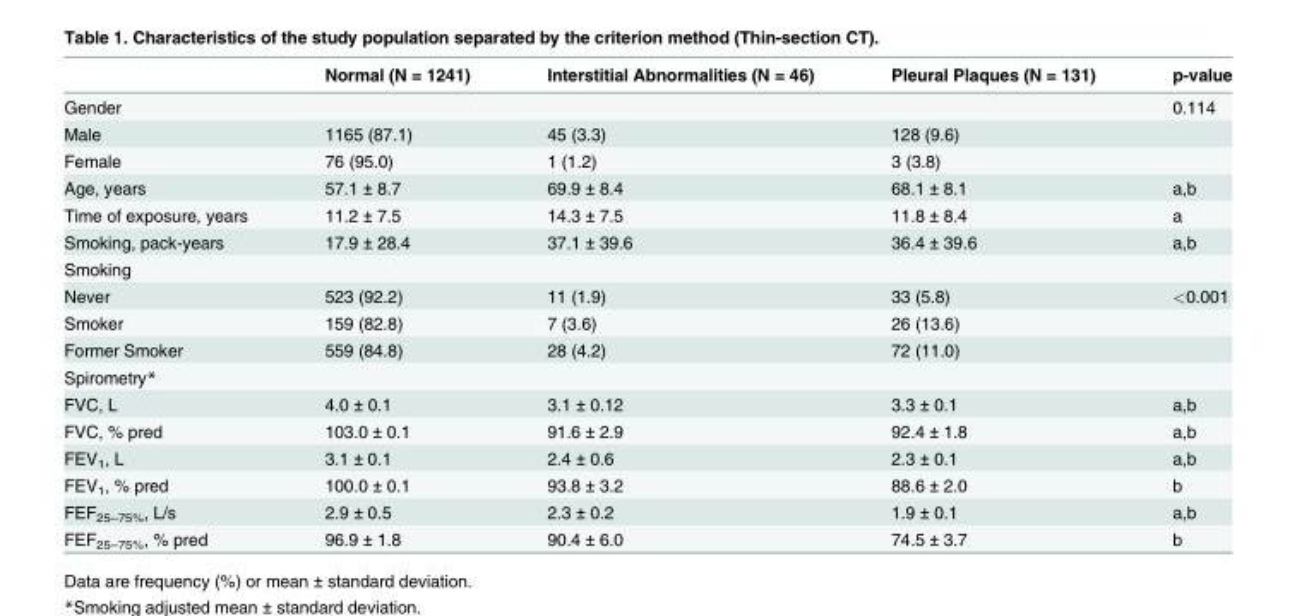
<table><thead><tr><td></td><td>Normal (N = 1241)</td><td>Interstitial Abnormalities (N = 46)</td><td>Pleural Plaques (N = 131)</td><td>p-value</td></tr></thead><tbody><tr><td>Gender</td><td></td><td></td><td></td><td>0.114</td></tr><tr><td>Male</td><td>1165 (87.1)</td><td>45 (3.3)</td><td>128 (9.6)</td><td></td></tr><tr><td>Female</td><td>76 (95.0)</td><td>1 (1.2)</td><td>3 (3.8)</td><td></td></tr><tr><td>Age, years</td><td>57.1 ± 8.7</td><td>69.9 ± 8.4</td><td>68.1 ± 8.1</td><td>a,b</td></tr><tr><td>Time of exposure, years</td><td>11.2 ± 7.5</td><td>14.3 ± 7.5</td><td>11.8 ± 8.4</td><td>a</td></tr><tr><td>Smoking, pack-years</td><td>17.9 ± 28.4</td><td>37.1 ± 39.6</td><td>36.4 ± 39.6</td><td>a,b</td></tr><tr><td colspan="5">Smoking</td></tr><tr><td>Never</td><td>523 (92.2)</td><td>11 (1.9)</td><td>33 (5.8)</td><td>&lt;0.001</td></tr><tr><td>Smoker</td><td>159 (82.8)</td><td>7 (3.6)</td><td>26 (13.6)</td><td></td></tr><tr><td>Former Smoker</td><td>559 (84.8)</td><td>28 (4.2)</td><td>72 (11.0)</td><td></td></tr><tr><td colspan="5">Spirometry*</td></tr><tr><td>FVC, L</td><td>4.0 ± 0.1</td><td>3.1 ± 0.12</td><td>3.3 ± 0.1</td><td>a,b</td></tr><tr><td>FVC, % pred</td><td>103.0 ± 0.1</td><td>91.6 ± 2.9</td><td>92.4 ± 1.8</td><td>a,b</td></tr><tr><td>FEV<sub>1</sub>, L</td><td>3.1 ± 0.1</td><td>2.4 ± 0.6</td><td>2.3 ± 0.1</td><td>a,b</td></tr><tr><td>FEV<sub>1</sub>, % pred</td><td>100.0 ± 0.1</td><td>93.8 ± 3.2</td><td>88.6 ± 2.0</td><td>b</td></tr><tr><td>FEF<sub>25–75%</sub>, L/s</td><td>2.9 ± 0.5</td><td>2.3 ± 0.2</td><td>1.9 ± 0.1</td><td>a,b</td></tr><tr><td>FEF<sub>25–75%</sub>, % pred</td><td>96.9 ± 1.8</td><td>90.4 ± 6.0</td><td>74.5 ± 3.7</td><td>b</td></tr></tbody></table>